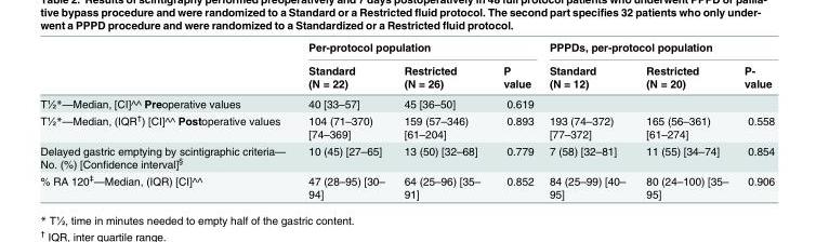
<table><thead><tr><td rowspan="2"></td><td colspan="3">Per-protocol population</td><td colspan="3">PPPDs, per-protocol population</td></tr><tr><td>Standard (N = 22)</td><td>Restricted (N = 26)</td><td>P value</td><td>Standard (N = 12)</td><td>Restricted (N = 20)</td><td>P- value</td></tr></thead><tbody><tr><td>T½*—Median, [CI]^^ Preoperative values</td><td>40 [33–57]</td><td>45 [36–50]</td><td>0.619</td><td></td><td></td><td></td></tr><tr><td>T½*—Median, (IQR<sup>†</sup>) [CI]^^ Postoperative values</td><td>104 (71–370) [74–369]</td><td>159 (57–346) [61–204]</td><td>0.893</td><td>193 (74–372) [77–372]</td><td>165 (56–361) [61–274]</td><td>0.558</td></tr><tr><td>Delayed gastric emptying by scintigraphic criteria— No. (%) [Confidence interval]<sup>§</sup></td><td>10 (45) [27–65]</td><td>13 (50) [32–68]</td><td>0.779</td><td>7 (58) [32–81]</td><td>11 (55) [34–74]</td><td>0.854</td></tr><tr><td>% RA 120<sup>‡</sup>—Median, (IQR) [CI]^^</td><td>47 (28–95) [30– 94]</td><td>64 (25–96) [35– 91]</td><td>0.852</td><td>84 (25–99) [40– 95]</td><td>80 (24–100) [35– 95]</td><td>0.906</td></tr></tbody></table>